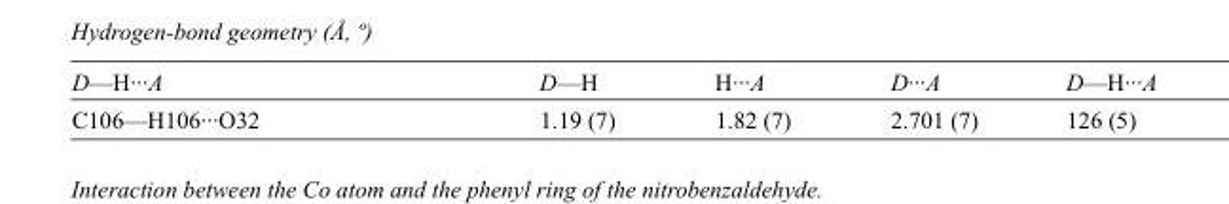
<table><tbody><tr><td>D—H···A</td><td>D—H</td><td>H···A</td><td>D···A</td><td>D—H···A</td></tr><tr><td>C106—H106···O32</td><td>1.19 (7)</td><td>1.82 (7)</td><td>2.701 (7)</td><td>126 (5)</td></tr></tbody></table>